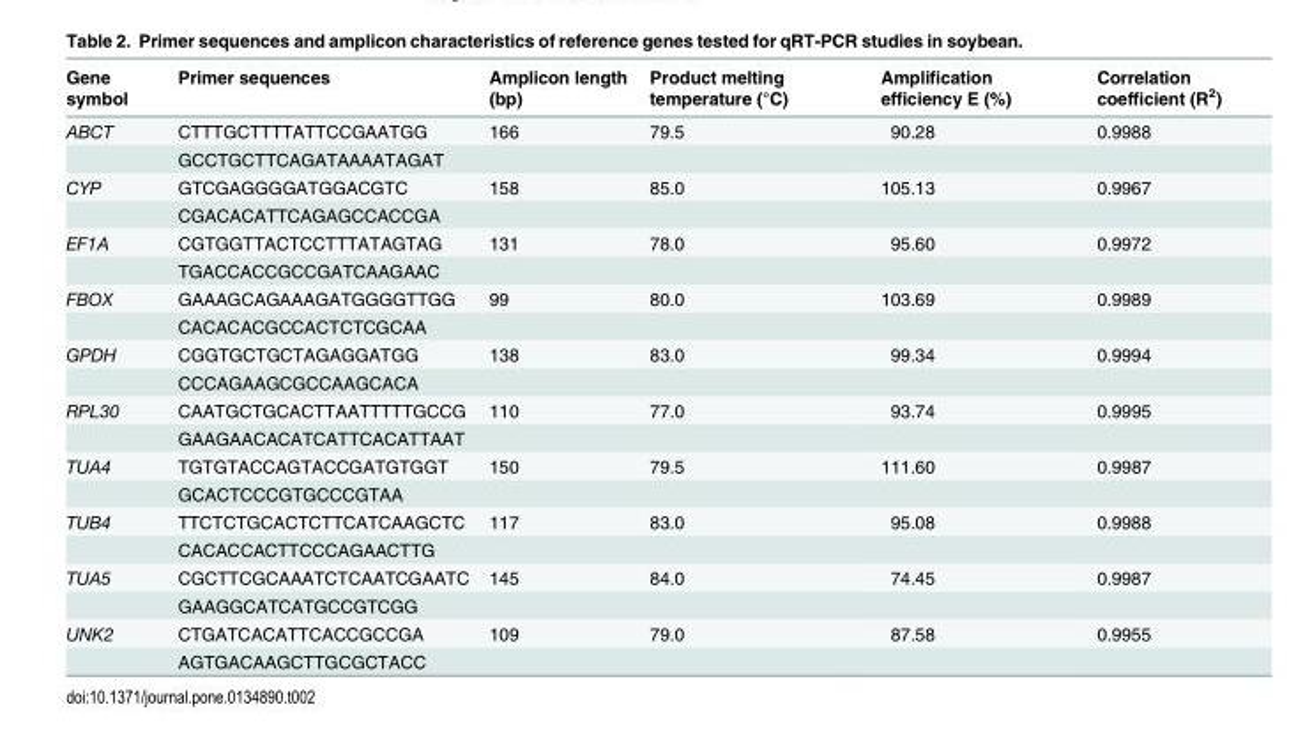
<table><thead><tr><td>Gene symbol</td><td>Primer sequences</td><td>Amplicon length (bp)</td><td>Product melting temperature (°C)</td><td>Amplification efficiency E (%)</td><td>Correlation coefficient (R<sup>2</sup>)</td></tr></thead><tbody><tr><td rowspan="2">ABCT</td><td>CTTTGCTTTTATTCCGAATGG</td><td>166</td><td>79.5</td><td>90.28</td><td>0.9988</td></tr><tr><td>GCCTGCTTCAGATAAAATAGAT</td><td></td><td></td><td></td><td></td></tr><tr><td rowspan="2">CYP</td><td>GTCGAGGGGATGGACGTC</td><td>158</td><td>85.0</td><td>105.13</td><td>0.9967</td></tr><tr><td>CGACACATTCAGAGCCACCGA</td><td></td><td></td><td></td><td></td></tr><tr><td rowspan="2">EF1A</td><td>CGTGGTTACTCCTTTATAGTAG</td><td>131</td><td>78.0</td><td>95.60</td><td>0.9972</td></tr><tr><td>TGACCACCGCCGATCAAGAAC</td><td></td><td></td><td></td><td></td></tr><tr><td rowspan="2">FBOX</td><td>GAAAGCAGAAAGATGGGGTTGG</td><td>99</td><td>80.0</td><td>103.69</td><td>0.9989</td></tr><tr><td>CACACACGCCACTCTCGCAA</td><td></td><td></td><td></td><td></td></tr><tr><td rowspan="2">GPDH</td><td>CGGTGCTGCTAGAGGATGG</td><td>138</td><td>83.0</td><td>99.34</td><td>0.9994</td></tr><tr><td>CCCAGAAGCGCCAAGCACA</td><td></td><td></td><td></td><td></td></tr><tr><td rowspan="2">RPL30</td><td>CAATGCTGCACTTAATTTTTGCCG</td><td>110</td><td>77.0</td><td>93.74</td><td>0.9995</td></tr><tr><td>GAAGAACACATCATTCACATTAAT</td><td></td><td></td><td></td><td></td></tr><tr><td rowspan="2">TUA4</td><td>TGTGTACCAGTACCGATGTGGT</td><td>150</td><td>79.5</td><td>111.60</td><td>0.9987</td></tr><tr><td>GCACTCCCGTGCCCGTAA</td><td></td><td></td><td></td><td></td></tr><tr><td rowspan="2">TUB4</td><td>TTCTCTGCACTCTTCATCAAGCTC</td><td>117</td><td>83.0</td><td>95.08</td><td>0.9988</td></tr><tr><td>CACACCACTTCCCAGAACTTG</td><td></td><td></td><td></td><td></td></tr><tr><td rowspan="2">TUA5</td><td>CGCTTCGCAAATCTCAATCGAATC</td><td>145</td><td>84.0</td><td>74.45</td><td>0.9987</td></tr><tr><td>GAAGGCATCATGCCGTCGG</td><td></td><td></td><td></td><td></td></tr><tr><td rowspan="2">UNK2</td><td>CTGATCACATTCACCGCCGA</td><td>109</td><td>79.0</td><td>87.58</td><td>0.9955</td></tr><tr><td>AGTGACAAGCTTGCGCTACC</td><td></td><td></td><td></td><td></td></tr></tbody></table>